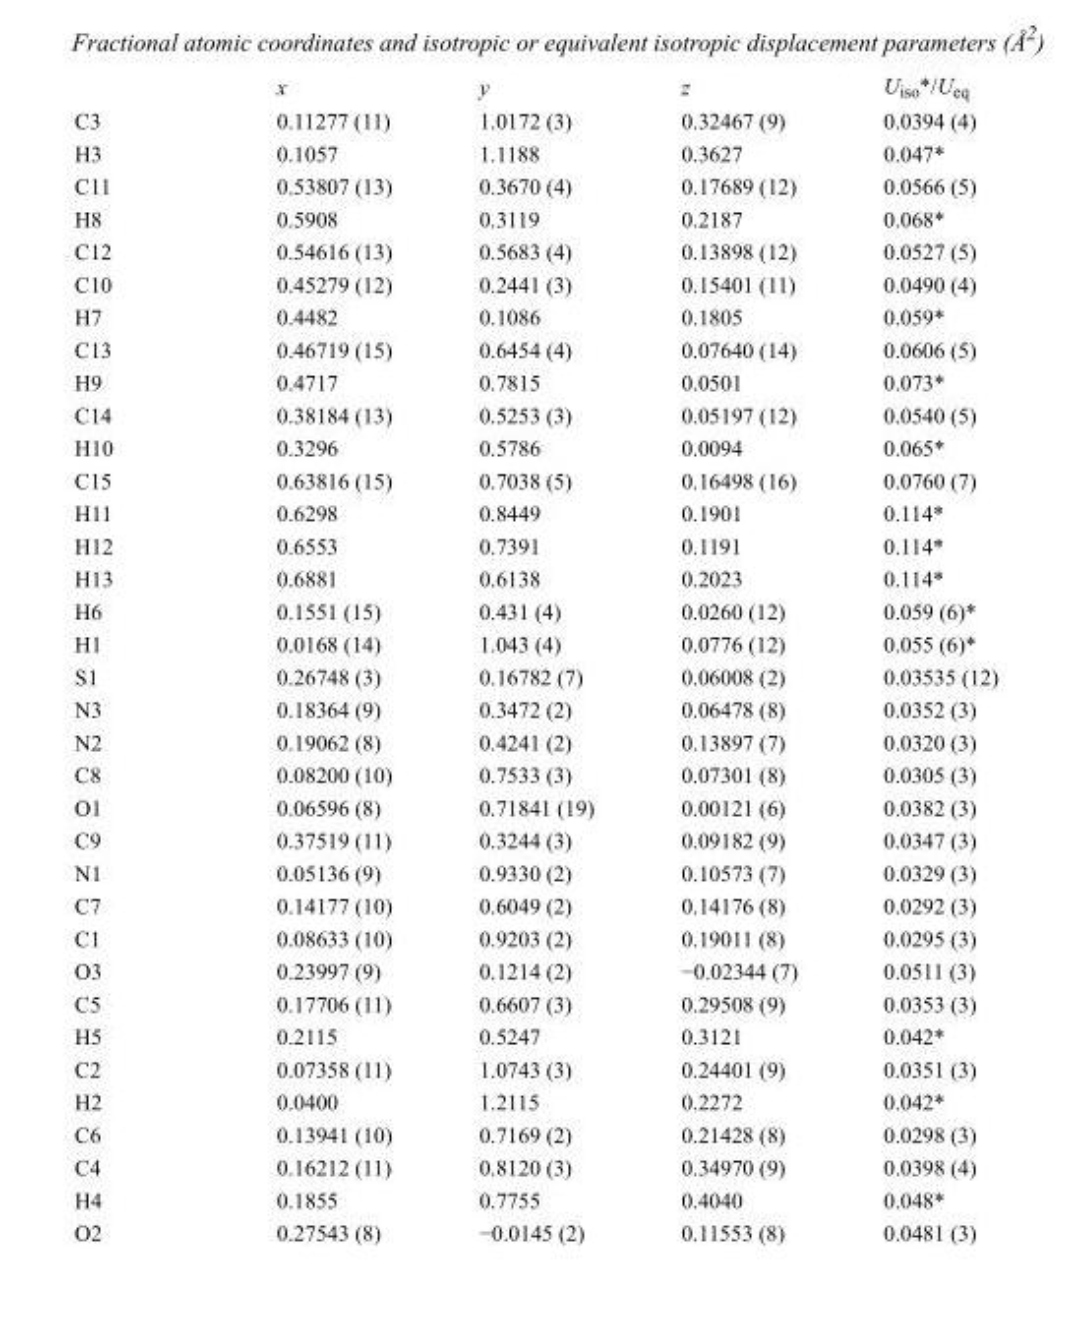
<table><thead><tr><td></td><td>x</td><td>y</td><td>z</td><td>U<sub>iso</sub>*/U<sub>eq</sub></td></tr></thead><tbody><tr><td>C3</td><td>0.11277 (11)</td><td>1.0172 (3)</td><td>0.32467 (9)</td><td>0.0394 (4)</td></tr><tr><td>H3</td><td>0.1057</td><td>1.1188</td><td>0.3627</td><td>0.047*</td></tr><tr><td>C11</td><td>0.53807 (13)</td><td>0.3670 (4)</td><td>0.17689 (12)</td><td>0.0566 (5)</td></tr><tr><td>H8</td><td>0.5908</td><td>0.3119</td><td>0.2187</td><td>0.068*</td></tr><tr><td>C12</td><td>0.54616 (13)</td><td>0.5683 (4)</td><td>0.13898 (12)</td><td>0.0527 (5)</td></tr><tr><td>C10</td><td>0.45279 (12)</td><td>0.2441 (3)</td><td>0.15401 (11)</td><td>0.0490 (4)</td></tr><tr><td>H7</td><td>0.4482</td><td>0.1086</td><td>0.1805</td><td>0.059*</td></tr><tr><td>C13</td><td>0.46719 (15)</td><td>0.6454 (4)</td><td>0.07640 (14)</td><td>0.0606 (5)</td></tr><tr><td>H9</td><td>0.4717</td><td>0.7815</td><td>0.0501</td><td>0.073*</td></tr><tr><td>C14</td><td>0.38184 (13)</td><td>0.5253 (3)</td><td>0.05197 (12)</td><td>0.0540 (5)</td></tr><tr><td>H10</td><td>0.3296</td><td>0.5786</td><td>0.0094</td><td>0.065*</td></tr><tr><td>C15</td><td>0.63816 (15)</td><td>0.7038 (5)</td><td>0.16498 (16)</td><td>0.0760 (7)</td></tr><tr><td>H11</td><td>0.6298</td><td>0.8449</td><td>0.1901</td><td>0.114*</td></tr><tr><td>H12</td><td>0.6553</td><td>0.7391</td><td>0.1191</td><td>0.114*</td></tr><tr><td>H13</td><td>0.6881</td><td>0.6138</td><td>0.2023</td><td>0.114*</td></tr><tr><td>H6</td><td>0.1551 (15)</td><td>0.431 (4)</td><td>0.0260 (12)</td><td>0.059 (6)*</td></tr><tr><td>H1</td><td>0.0168 (14)</td><td>1.043 (4)</td><td>0.0776 (12)</td><td>0.055 (6)*</td></tr><tr><td>S1</td><td>0.26748 (3)</td><td>0.16782 (7)</td><td>0.06008 (2)</td><td>0.03535 (12)</td></tr><tr><td>N3</td><td>0.18364 (9)</td><td>0.3472 (2)</td><td>0.06478 (8)</td><td>0.0352 (3)</td></tr><tr><td>N2</td><td>0.19062 (8)</td><td>0.4241 (2)</td><td>0.13897 (7)</td><td>0.0320 (3)</td></tr><tr><td>C8</td><td>0.08200 (10)</td><td>0.7533 (3)</td><td>0.07301 (8)</td><td>0.0305 (3)</td></tr><tr><td>O1</td><td>0.06596 (8)</td><td>0.71841 (19)</td><td>0.00121 (6)</td><td>0.0382 (3)</td></tr><tr><td>C9</td><td>0.37519 (11)</td><td>0.3244 (3)</td><td>0.09182 (9)</td><td>0.0347 (3)</td></tr><tr><td>N1</td><td>0.05136 (9)</td><td>0.9330 (2)</td><td>0.10573 (7)</td><td>0.0329 (3)</td></tr><tr><td>C7</td><td>0.14177 (10)</td><td>0.6049 (2)</td><td>0.14176 (8)</td><td>0.0292 (3)</td></tr><tr><td>C1</td><td>0.08633 (10)</td><td>0.9203 (2)</td><td>0.19011 (8)</td><td>0.0295 (3)</td></tr><tr><td>O3</td><td>0.23997 (9)</td><td>0.1214 (2)</td><td>−0.02344 (7)</td><td>0.0511 (3)</td></tr><tr><td>C5</td><td>0.17706 (11)</td><td>0.6607 (3)</td><td>0.29508 (9)</td><td>0.0353 (3)</td></tr><tr><td>H5</td><td>0.2115</td><td>0.5247</td><td>0.3121</td><td>0.042*</td></tr><tr><td>C2</td><td>0.07358 (11)</td><td>1.0743 (3)</td><td>0.24401 (9)</td><td>0.0351 (3)</td></tr><tr><td>H2</td><td>0.0400</td><td>1.2115</td><td>0.2272</td><td>0.042*</td></tr><tr><td>C6</td><td>0.13941 (10)</td><td>0.7169 (2)</td><td>0.21428 (8)</td><td>0.0298 (3)</td></tr><tr><td>C4</td><td>0.16212 (11)</td><td>0.8120 (3)</td><td>0.34970 (9)</td><td>0.0398 (4)</td></tr><tr><td>H4</td><td>0.1855</td><td>0.7755</td><td>0.4040</td><td>0.048*</td></tr><tr><td>O2</td><td>0.27543 (8)</td><td>−0.0145 (2)</td><td>0.11553 (8)</td><td>0.0481 (3)</td></tr></tbody></table>